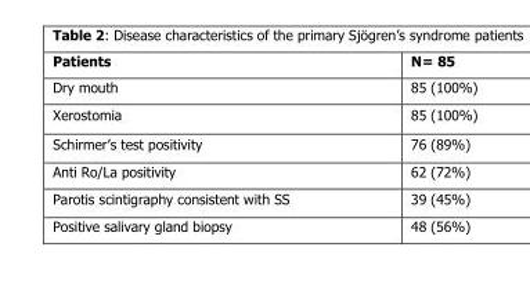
<table><thead><tr><td>Patients</td><td>N= 85</td></tr></thead><tbody><tr><td>Dry mouth</td><td>85 (100%)</td></tr><tr><td>Xerostomia</td><td>85 (100%)</td></tr><tr><td>Schirmer’s test positivity</td><td>76 (89%)</td></tr><tr><td>Anti Ro/La positivity</td><td>62 (72%)</td></tr><tr><td>Parotis scintigraphy consistent with SS</td><td>39 (45%)</td></tr><tr><td>Positive salivary gland biopsy</td><td>48 (56%)</td></tr></tbody></table>